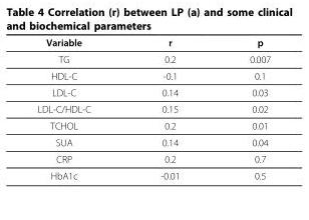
<table><thead><tr><td>Variable</td><td>r</td><td>p</td></tr></thead><tbody><tr><td>TG</td><td>0.2</td><td>0.007</td></tr><tr><td>HDL-C</td><td>-0.1</td><td>0.1</td></tr><tr><td>LDL-C</td><td>0.14</td><td>0.03</td></tr><tr><td>LDL-C/HDL-C</td><td>0.15</td><td>0.02</td></tr><tr><td>TCHOL</td><td>0.2</td><td>0.01</td></tr><tr><td>SUA</td><td>0.14</td><td>0.04</td></tr><tr><td>CRP</td><td>0.2</td><td>0.7</td></tr><tr><td>HbA1c</td><td>-0.01</td><td>0.5</td></tr></tbody></table>